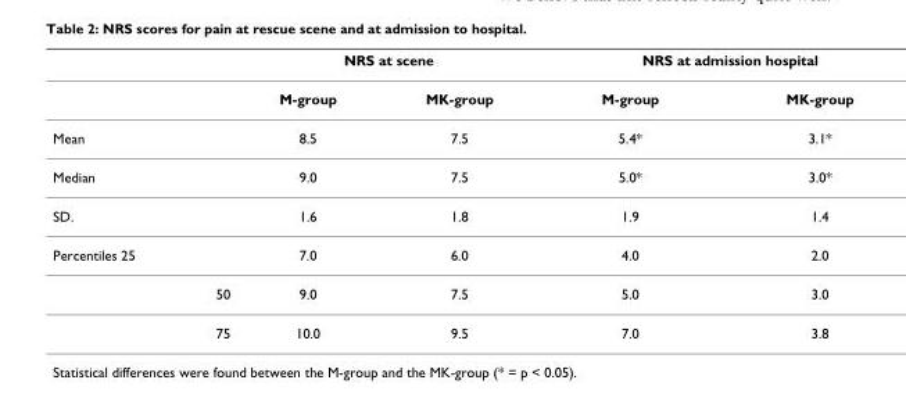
<table><thead><tr><td rowspan="2"></td><td colspan="2">NRS at scene</td><td colspan="2">NRS at admission hospital</td></tr><tr><td>M-group</td><td>MK-group</td><td>M-group</td><td>MK-group</td></tr></thead><tbody><tr><td>Mean</td><td>8.5</td><td>7.5</td><td>5.4*</td><td>3.1*</td></tr><tr><td>Median</td><td>9.0</td><td>7.5</td><td>5.0*</td><td>3.0*</td></tr><tr><td>SD.</td><td>1.6</td><td>1.8</td><td>1.9</td><td>1.4</td></tr><tr><td>Percentiles 25</td><td>7.0</td><td>6.0</td><td>4.0</td><td>2.0</td></tr><tr><td>50</td><td>9.0</td><td>7.5</td><td>5.0</td><td>3.0</td></tr><tr><td>75</td><td>10.0</td><td>9.5</td><td>7.0</td><td>3.8</td></tr></tbody></table>